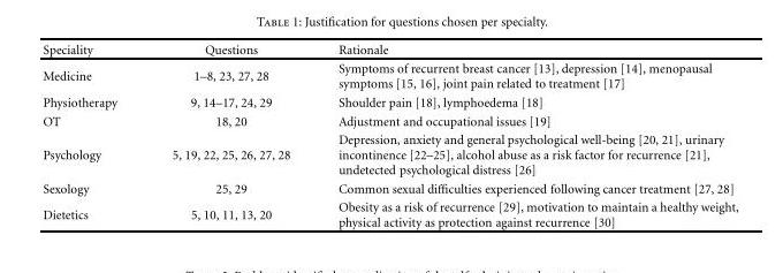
<table><thead><tr><td>Speciality</td><td>Questions</td><td>Rationale</td></tr></thead><tbody><tr><td>Medicine</td><td>1–8, 23, 27, 28</td><td>Symptoms of recurrent breast cancer [13], depression [14], menopausal symptoms [15, 16], joint pain related to treatment [17]</td></tr><tr><td>Physiotherapy</td><td>9, 14–17, 24, 29</td><td>Shoulder pain [18], lymphoedema [18]</td></tr><tr><td>OT</td><td>18, 20</td><td>Adjustment and occupational issues [19]</td></tr><tr><td>Psychology</td><td>5, 19, 22, 25, 26, 27, 28</td><td>Depression, anxiety and general psychological well-being [20, 21], urinary incontinence [22–25], alcohol abuse as a risk factor for recurrence [21], undetected psychological distress [26]</td></tr><tr><td>Sexology</td><td>25, 29</td><td>Common sexual difficulties experienced following cancer treatment [27, 28]</td></tr><tr><td>Dietetics</td><td>5, 10, 11, 13, 20</td><td>Obesity as a risk of recurrence [29], motivation to maintain a healthy weight, physical activity as protection against recurrence [30]</td></tr></tbody></table>